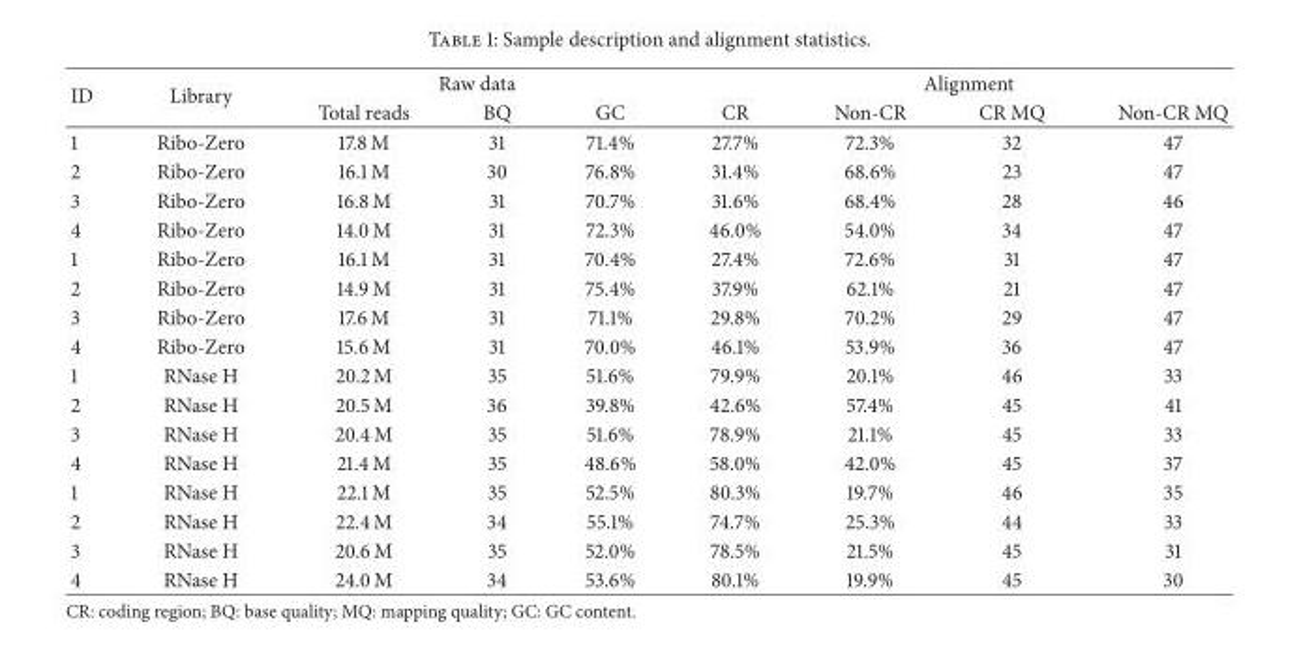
<table><thead><tr><td rowspan="2">ID</td><td rowspan="2">Library</td><td colspan="3">Raw data</td><td colspan="4">Alignment</td></tr><tr><td>Total reads</td><td>BQ</td><td>GC</td><td>CR</td><td>Non-CR</td><td>CR MQ</td><td>Non-CR MQ</td></tr></thead><tbody><tr><td>1</td><td>Ribo-Zero</td><td>17.8 M</td><td>31</td><td>71.4%</td><td>27.7%</td><td>72.3%</td><td>32</td><td>47</td></tr><tr><td>2</td><td>Ribo-Zero</td><td>16.1 M</td><td>30</td><td>76.8%</td><td>31.4%</td><td>68.6%</td><td>23</td><td>47</td></tr><tr><td>3</td><td>Ribo-Zero</td><td>16.8 M</td><td>31</td><td>70.7%</td><td>31.6%</td><td>68.4%</td><td>28</td><td>46</td></tr><tr><td>4</td><td>Ribo-Zero</td><td>14.0 M</td><td>31</td><td>72.3%</td><td>46.0%</td><td>54.0%</td><td>34</td><td>47</td></tr><tr><td>1</td><td>Ribo-Zero</td><td>16.1 M</td><td>31</td><td>70.4%</td><td>27.4%</td><td>72.6%</td><td>31</td><td>47</td></tr><tr><td>2</td><td>Ribo-Zero</td><td>14.9 M</td><td>31</td><td>75.4%</td><td>37.9%</td><td>62.1%</td><td>21</td><td>47</td></tr><tr><td>3</td><td>Ribo-Zero</td><td>17.6 M</td><td>31</td><td>71.1%</td><td>29.8%</td><td>70.2%</td><td>29</td><td>47</td></tr><tr><td>4</td><td>Ribo-Zero</td><td>15.6 M</td><td>31</td><td>70.0%</td><td>46.1%</td><td>53.9%</td><td>36</td><td>47</td></tr><tr><td>1</td><td>RNase H</td><td>20.2 M</td><td>35</td><td>51.6%</td><td>79.9%</td><td>20.1%</td><td>46</td><td>33</td></tr><tr><td>2</td><td>RNase H</td><td>20.5 M</td><td>36</td><td>39.8%</td><td>42.6%</td><td>57.4%</td><td>45</td><td>41</td></tr><tr><td>3</td><td>RNase H</td><td>20.4 M</td><td>35</td><td>51.6%</td><td>78.9%</td><td>21.1%</td><td>45</td><td>33</td></tr><tr><td>4</td><td>RNase H</td><td>21.4 M</td><td>35</td><td>48.6%</td><td>58.0%</td><td>42.0%</td><td>45</td><td>37</td></tr><tr><td>1</td><td>RNase H</td><td>22.1 M</td><td>35</td><td>52.5%</td><td>80.3%</td><td>19.7%</td><td>46</td><td>35</td></tr><tr><td>2</td><td>RNase H</td><td>22.4 M</td><td>34</td><td>55.1%</td><td>74.7%</td><td>25.3%</td><td>44</td><td>33</td></tr><tr><td>3</td><td>RNase H</td><td>20.6 M</td><td>35</td><td>52.0%</td><td>78.5%</td><td>21.5%</td><td>45</td><td>31</td></tr><tr><td>4</td><td>RNase H</td><td>24.0 M</td><td>34</td><td>53.6%</td><td>80.1%</td><td>19.9%</td><td>45</td><td>30</td></tr></tbody></table>